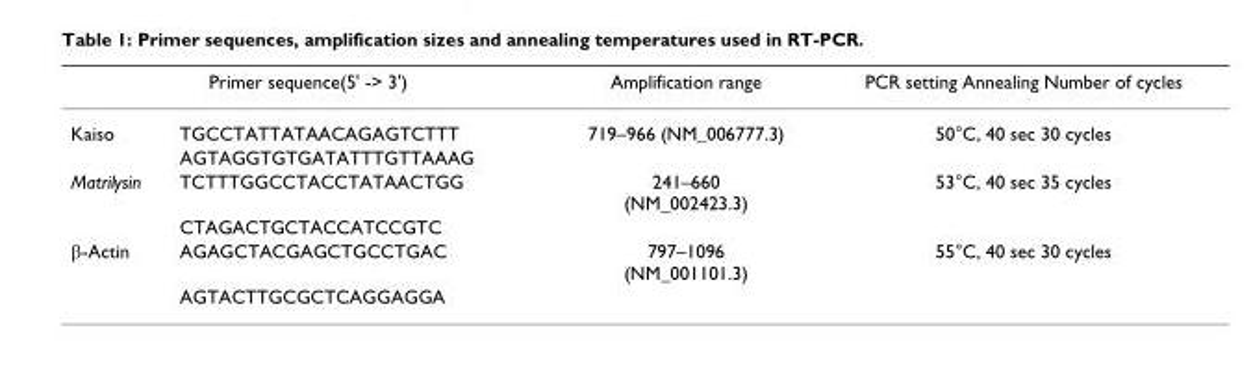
<table><thead><tr><td colspan="2">Primer sequence(5&#x27; -&gt; 3&#x27;)</td><td rowspan="2">Amplification range 719–966 (NM_006777.3)</td><td rowspan="2">PCR setting Annealing Number of cycles 50°C, 40 sec 30 cycles</td></tr><tr><td>Kaiso</td><td>TGCCTATTATAACAGAGTCTTT</td></tr></thead><tbody><tr><td></td><td>AGTAGGTGTGATATTTGTTAAAG</td><td></td><td></td></tr><tr><td rowspan="2">Matrilysin</td><td>TCTTTGGCCTACCTATAACTGG</td><td>241–660 (NM_002423.3)</td><td>53°C, 40 sec 35 cycles</td></tr><tr><td>CTAGACTGCTACCATCCGTC</td><td></td><td></td></tr><tr><td rowspan="2">β-Actin</td><td>AGAGCTACGAGCTGCCTGAC</td><td>797–1096 (NM_001101.3)</td><td>55°C, 40 sec 30 cycles</td></tr><tr><td>AGTACTTGCGCTCAGGAGGA</td><td></td><td></td></tr></tbody></table>